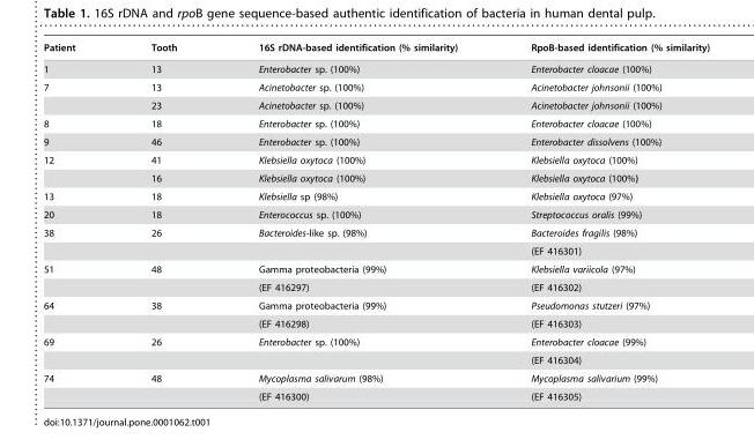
<table><thead><tr><td>Patient</td><td>Tooth</td><td>16S rDNA-based identification (% similarity)</td><td>RpoB-based identification (% similarity)</td></tr></thead><tbody><tr><td>1</td><td>13</td><td>Enterobacter sp. (100%)</td><td>Enterobacter cloacae (100%)</td></tr><tr><td rowspan="2">7</td><td>13</td><td>Acinetobacter sp. (100%)</td><td>Acinetobacter johnsonii (100%)</td></tr><tr><td>23</td><td>Acinetobacter sp. (100%)</td><td>Acinetobacter johnsonii (100%)</td></tr><tr><td>8</td><td>18</td><td>Enterobacter sp. (100%)</td><td>Enterobacter cloacae (100%)</td></tr><tr><td>9</td><td>46</td><td>Enterobacter sp. (100%)</td><td>Enterobacter dissolvens (100%)</td></tr><tr><td rowspan="2">12</td><td>41</td><td>Klebsiella oxytoca (100%)</td><td>Klebsiella oxytoca (100%)</td></tr><tr><td>16</td><td>Klebsiella oxytoca (100%)</td><td>Klebsiella oxytoca (100%)</td></tr><tr><td>13</td><td>18</td><td>Klebsiella sp (98%)</td><td>Klebsiella oxytoca (97%)</td></tr><tr><td>20</td><td>18</td><td>Enterococcus sp. (100%)</td><td>Streptococcus oralis (99%)</td></tr><tr><td rowspan="2">38</td><td>26</td><td>Bacteroides-like sp. (98%)</td><td>Bacteroides fragilis (98%)</td></tr><tr><td></td><td></td><td>(EF 416301)</td></tr><tr><td rowspan="2">51</td><td>48</td><td>Gamma proteobacteria (99%)</td><td>Klebsiella variicola (97%)</td></tr><tr><td></td><td>(EF 416297)</td><td>(EF 416302)</td></tr><tr><td rowspan="2">64</td><td>38</td><td>Gamma proteobacteria (99%)</td><td>Pseudomonas stutzeri (97%)</td></tr><tr><td></td><td>(EF 416298)</td><td>(EF 416303)</td></tr><tr><td rowspan="2">69</td><td>26</td><td>Enterobacter sp. (100%)</td><td>Enterobacter cloacae (99%)</td></tr><tr><td></td><td></td><td>(EF 416304)</td></tr><tr><td rowspan="2">74</td><td>48</td><td>Mycoplasma salivarum (98%)</td><td>Mycoplasma salivarium (99%)</td></tr><tr><td></td><td>(EF 416300)</td><td>(EF 416305)</td></tr></tbody></table>